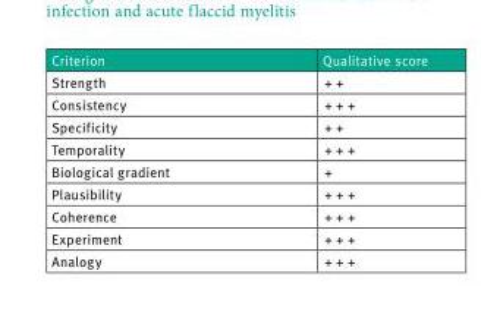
<table><thead><tr><td>Criterion</td><td>Qualitative score</td></tr></thead><tbody><tr><td>Strength</td><td>+ +</td></tr><tr><td>Consistency</td><td>+ + +</td></tr><tr><td>Specificity</td><td>+ +</td></tr><tr><td>Temporality</td><td>+ + +</td></tr><tr><td>Biological gradient</td><td>+</td></tr><tr><td>Plausibility</td><td>+ + +</td></tr><tr><td>Coherence</td><td>+ + +</td></tr><tr><td>Experiment</td><td>+ + +</td></tr><tr><td>Analogy</td><td>+ + +</td></tr></tbody></table>